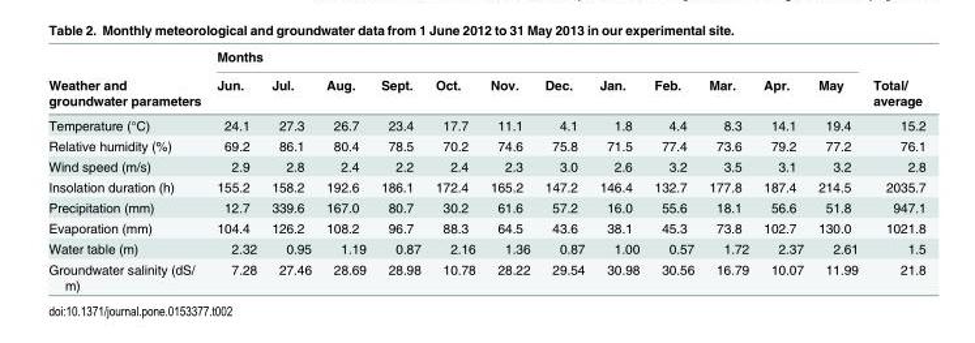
<table><thead><tr><td rowspan="2">Weather and groundwater parameters</td><td colspan="12">Months</td><td rowspan="2">Total/ average</td></tr><tr><td>Jun.</td><td>Jul.</td><td>Aug.</td><td>Sept.</td><td>Oct.</td><td>Nov.</td><td>Dec.</td><td>Jan.</td><td>Feb.</td><td>Mar.</td><td>Apr.</td><td>May</td></tr></thead><tbody><tr><td>Temperature (°C)</td><td>24.1</td><td>27.3</td><td>26.7</td><td>23.4</td><td>17.7</td><td>11.1</td><td>4.1</td><td>1.8</td><td>4.4</td><td>8.3</td><td>14.1</td><td>19.4</td><td>15.2</td></tr><tr><td>Relative humidity (%)</td><td>69.2</td><td>86.1</td><td>80.4</td><td>78.5</td><td>70.2</td><td>74.6</td><td>75.8</td><td>71.5</td><td>77.4</td><td>73.6</td><td>79.2</td><td>77.2</td><td>76.1</td></tr><tr><td>Wind speed (m/s)</td><td>2.9</td><td>2.8</td><td>2.4</td><td>2.2</td><td>2.4</td><td>2.3</td><td>3.0</td><td>2.6</td><td>3.2</td><td>3.5</td><td>3.1</td><td>3.2</td><td>2.8</td></tr><tr><td>Insolation duration (h)</td><td>155.2</td><td>158.2</td><td>192.6</td><td>186.1</td><td>172.4</td><td>165.2</td><td>147.2</td><td>146.4</td><td>132.7</td><td>177.8</td><td>187.4</td><td>214.5</td><td>2035.7</td></tr><tr><td>Precipitation (mm)</td><td>12.7</td><td>339.6</td><td>167.0</td><td>80.7</td><td>30.2</td><td>61.6</td><td>57.2</td><td>16.0</td><td>55.6</td><td>18.1</td><td>56.6</td><td>51.8</td><td>947.1</td></tr><tr><td>Evaporation (mm)</td><td>104.4</td><td>126.2</td><td>108.2</td><td>96.7</td><td>88.3</td><td>64.5</td><td>43.6</td><td>38.1</td><td>45.3</td><td>73.8</td><td>102.7</td><td>130.0</td><td>1021.8</td></tr><tr><td>Water table (m)</td><td>2.32</td><td>0.95</td><td>1.19</td><td>0.87</td><td>2.16</td><td>1.36</td><td>0.87</td><td>1.00</td><td>0.57</td><td>1.72</td><td>2.37</td><td>2.61</td><td>1.5</td></tr><tr><td>Groundwater salinity (dS/ m)</td><td>7.28</td><td>27.46</td><td>28.69</td><td>28.98</td><td>10.78</td><td>28.22</td><td>29.54</td><td>30.98</td><td>30.56</td><td>16.79</td><td>10.07</td><td>11.99</td><td>21.8</td></tr></tbody></table>